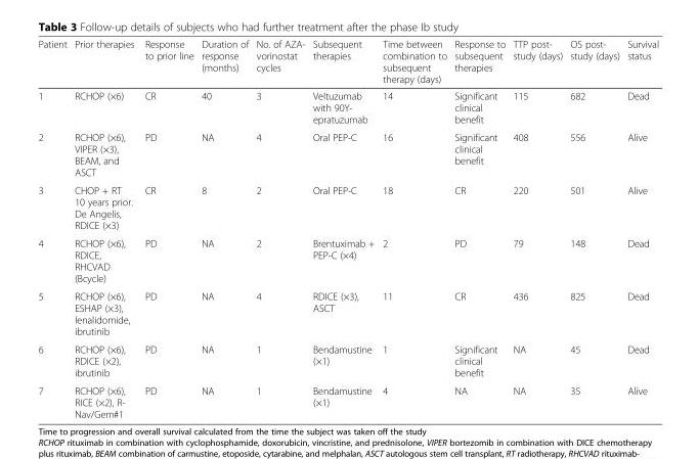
<table><thead><tr><td>Patient</td><td>Prior therapies</td><td>Response to prior line</td><td>Duration of response (months)</td><td>No. of AZA- vorinostat cycles</td><td>Subsequent therapies</td><td>Time between combination to subsequent therapy (days)</td><td>Response to subsequent therapies</td><td>TTP post- study (days)</td><td>OS post- study (days)</td><td>Survival status</td></tr></thead><tbody><tr><td>1</td><td>RCHOP (×6)</td><td>CR</td><td>40</td><td>3</td><td>Veltuzumab with 90Y- epratuzumab</td><td>14</td><td>Significant clinical benefit</td><td>115</td><td>682</td><td>Dead</td></tr><tr><td>2</td><td>RCHOP (×6), VIPER (×3), BEAM, and ASCT</td><td>PD</td><td>NA</td><td>4</td><td>Oral PEP-C</td><td>16</td><td>Significant clinical benefit</td><td>408</td><td>556</td><td>Alive</td></tr><tr><td>3</td><td>CHOP + RT 10 years prior. De Angelis, RDICE (×3)</td><td>CR</td><td>8</td><td>2</td><td>Oral PEP-C</td><td>18</td><td>CR</td><td>220</td><td>501</td><td>Alive</td></tr><tr><td>4</td><td>RCHOP (×6), RDICE, RHCVAD (Bcycle)</td><td>PD</td><td>NA</td><td>2</td><td>Brentuximab + PEP-C (×4)</td><td>2</td><td>PD</td><td>79</td><td>148</td><td>Dead</td></tr><tr><td>5</td><td>RCHOP (×6), ESHAP (×3), lenalidomide, ibrutinib</td><td>PD</td><td>NA</td><td>4</td><td>RDICE (×3), ASCT</td><td>11</td><td>CR</td><td>436</td><td>825</td><td>Dead</td></tr><tr><td>6</td><td>RCHOP (×6), RDICE (×2), ibrutinib</td><td>PD</td><td>NA</td><td>1</td><td>Bendamustine (×1)</td><td>1</td><td>Significant clinical benefit</td><td>NA</td><td>45</td><td>Dead</td></tr><tr><td>7</td><td>RCHOP (×6), RICE (×2), R- Nav/Gem#1</td><td>PD</td><td>NA</td><td>1</td><td>Bendamustine (×1)</td><td>4</td><td>NA</td><td>NA</td><td>35</td><td>Alive</td></tr></tbody></table>